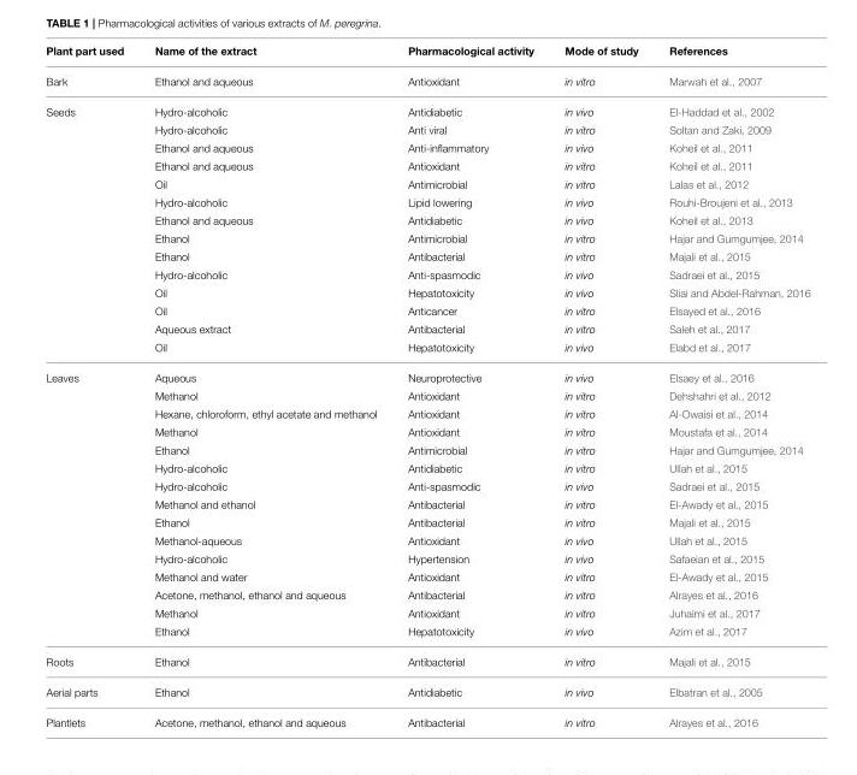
<table><thead><tr><td>Plant part used</td><td>Name of the extract</td><td>Pharmacological activity</td><td>Mode of study</td><td>References</td></tr></thead><tbody><tr><td>Bark</td><td>Ethanol and aqueous</td><td>Antioxidant</td><td>in vitro</td><td>Marwah et al., 2007</td></tr><tr><td rowspan="14">Seeds</td><td>Hydro-alcoholic</td><td>Antidiabetic</td><td>in vivo</td><td>El-Haddad et al., 2002</td></tr><tr><td>Hydro-alcoholic</td><td>Anti viral</td><td>in vitro</td><td>Soltan and Zaki, 2009</td></tr><tr><td>Ethanol and aqueous</td><td>Anti-inflammatory</td><td>in vivo</td><td>Koheil et al., 2011</td></tr><tr><td>Ethanol and aqueous</td><td>Antioxidant</td><td>in vitro</td><td>Koheil et al., 2011</td></tr><tr><td>Oil</td><td>Antimicrobial</td><td>in vitro</td><td>Lalas et al., 2012</td></tr><tr><td>Hydro-alcoholic</td><td>Lipid lowering</td><td>in vivo</td><td>Rouhi-Broujeni et al., 2013</td></tr><tr><td>Ethanol and aqueous</td><td>Antidiabetic</td><td>in vivo</td><td>Koheil et al., 2013</td></tr><tr><td>Ethanol</td><td>Antimicrobial</td><td>in vitro</td><td>Hajar and Gumgumjee, 2014</td></tr><tr><td>Ethanol</td><td>Antibacterial</td><td>in vitro</td><td>Majali et al., 2015</td></tr><tr><td>Hydro-alcoholic</td><td>Anti-spasmodic</td><td>in vivo</td><td>Sadraei et al., 2015</td></tr><tr><td>Oil</td><td>Hepatotoxicity</td><td>in vivo</td><td>Sliai and Abdel-Rahman, 2016</td></tr><tr><td>Oil</td><td>Anticancer</td><td>in vitro</td><td>Elsayed et al., 2016</td></tr><tr><td>Aqueous extract</td><td>Antibacterial</td><td>in vitro</td><td>Saleh et al., 2017</td></tr><tr><td>Oil</td><td>Hepatotoxicity</td><td>in vivo</td><td>Elabd et al., 2017</td></tr><tr><td rowspan="15">Leaves</td><td>Aqueous</td><td>Neuroprotective</td><td>in vivo</td><td>Elsaey et al., 2016</td></tr><tr><td>Methanol</td><td>Antioxidant</td><td>in vitro</td><td>Dehshahri et al., 2012</td></tr><tr><td>Hexane, chloroform, ethyl acetate and methanol</td><td>Antioxidant</td><td>in vitro</td><td>Al-Owaisi et al., 2014</td></tr><tr><td>Methanol</td><td>Antioxidant</td><td>in vitro</td><td>Moustafa et al., 2014</td></tr><tr><td>Ethanol</td><td>Antimicrobial</td><td>in vitro</td><td>Hajar and Gumgumjee, 2014</td></tr><tr><td>Hydro-alcoholic</td><td>Antidiabetic</td><td>in vitro</td><td>Ullah et al., 2015</td></tr><tr><td>Hydro-alcoholic</td><td>Anti-spasmodic</td><td>in vivo</td><td>Sadraei et al., 2015</td></tr><tr><td>Methanol and ethanol</td><td>Antibacterial</td><td>in vitro</td><td>El-Awady et al., 2015</td></tr><tr><td>Ethanol</td><td>Antibacterial</td><td>in vitro</td><td>Majali et al., 2015</td></tr><tr><td>Methanol-aqueous</td><td>Antioxidant</td><td>in vivo</td><td>Ullah et al., 2015</td></tr><tr><td>Hydro-alcoholic</td><td>Hypertension</td><td>in vivo</td><td>Safaeian et al., 2015</td></tr><tr><td>Methanol and water</td><td>Antioxidant</td><td>in vitro</td><td>El-Awady et al., 2015</td></tr><tr><td>Acetone, methanol, ethanol and aqueous</td><td>Antibacterial</td><td>in vitro</td><td>Alrayes et al., 2016</td></tr><tr><td>Methanol</td><td>Antioxidant</td><td>in vitro</td><td>Juhaimi et al., 2017</td></tr><tr><td>Ethanol</td><td>Hepatotoxicity</td><td>in vivo</td><td>Azim et al., 2017</td></tr><tr><td>Roots</td><td>Ethanol</td><td>Antibacterial</td><td>in vitro</td><td>Majali et al., 2015</td></tr><tr><td>Aerial parts</td><td>Ethanol</td><td>Antidiabetic</td><td>in vivo</td><td>Elbatran et al., 2005</td></tr><tr><td>Plantlets</td><td>Acetone, methanol, ethanol and aqueous</td><td>Antibacterial</td><td>in vitro</td><td>Alrayes et al., 2016</td></tr></tbody></table>